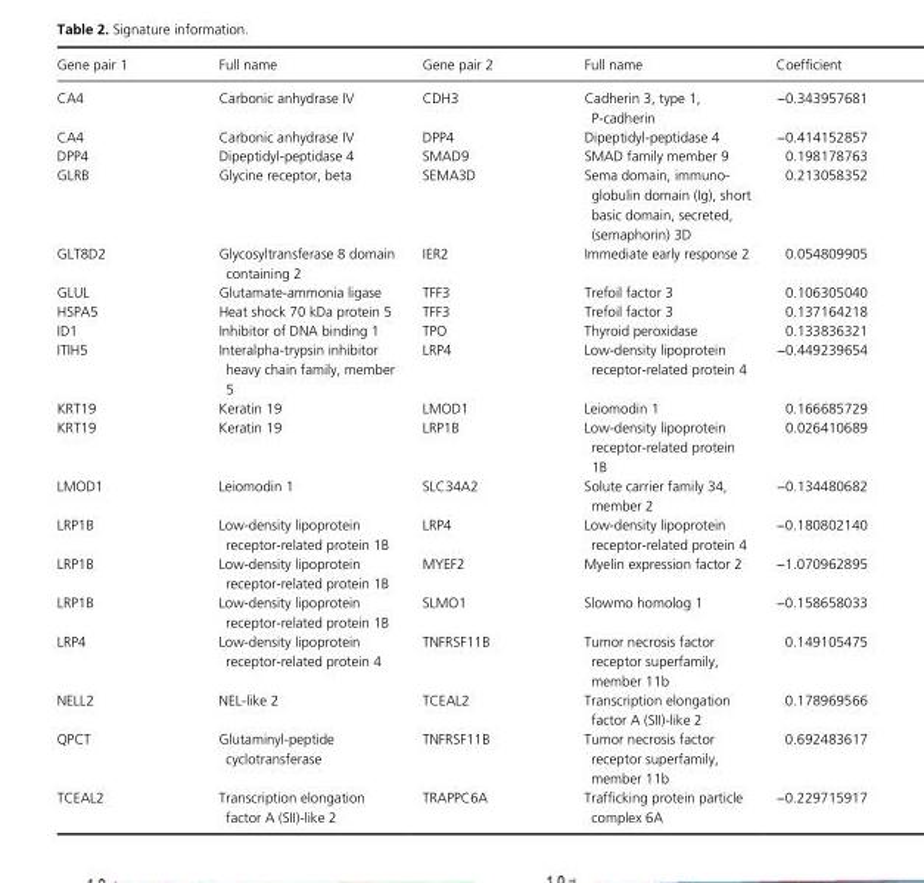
<table><thead><tr><td>Gene pair 1</td><td>Full name</td><td>Gene pair 2</td><td>Full name</td><td>Coefficient</td></tr></thead><tbody><tr><td>CA4</td><td>Carbonic anhydrase IV</td><td>CDH3</td><td>Cadherin 3, type 1, P- cadherin</td><td>−0.343957681</td></tr><tr><td>CA4</td><td>Carbonic anhydrase IV</td><td>DPP4</td><td>Dipeptidyl- peptidase 4</td><td>−0.414152857</td></tr><tr><td>DPP4</td><td>Dipeptidyl- peptidase 4</td><td>SMAD9</td><td>SMAD family member 9</td><td>0.198178763</td></tr><tr><td>GLRB</td><td>Glycine receptor, beta</td><td>SEMA3D</td><td>Sema domain, immuno- globulin domain (Ig), short basic domain, secreted, (semaphorin) 3D</td><td>0.213058352</td></tr><tr><td>GLT8D2</td><td>Glycosyltransferase 8 domain containing 2</td><td>IER2</td><td>Immediate early response 2</td><td>0.054809905</td></tr><tr><td>GLUL</td><td>Glutamate- ammonia ligase</td><td>TFF3</td><td>Trefoil factor 3</td><td>0.106305040</td></tr><tr><td>HSPA5</td><td>Heat shock 70 kDa protein 5</td><td>TFF3</td><td>Trefoil factor 3</td><td>0.137164218</td></tr><tr><td>ID1</td><td>Inhibitor of DNA binding 1</td><td>TPO</td><td>Thyroid peroxidase</td><td>0.133836321</td></tr><tr><td>ITIH5</td><td>Interalpha- trypsin inhibitor heavy chain family, member 5</td><td>LRP4</td><td>Low- density lipoprotein receptor- related protein 4</td><td>−0.449239654</td></tr><tr><td>KRT19</td><td>Keratin 19</td><td>LMOD1</td><td>Leiomodin 1</td><td>0.166685729</td></tr><tr><td>KRT19</td><td>Keratin 19</td><td>LRP1B</td><td>Low- density lipoprotein receptor- related protein 1B</td><td>0.026410689</td></tr><tr><td>LMOD1</td><td>Leiomodin 1</td><td>SLC34A2</td><td>Solute carrier family 34, member 2</td><td>−0.134480682</td></tr><tr><td>LRP1B</td><td>Low- density lipoprotein receptor- related protein 1B</td><td>LRP4</td><td>Low- density lipoprotein receptor- related protein 4</td><td>−0.180802140</td></tr><tr><td>LRP1B</td><td>Low- density lipoprotein receptor- related protein 1B</td><td>MYEF2</td><td>Myelin expression factor 2</td><td>−1.070962895</td></tr><tr><td>LRP1B</td><td>Low- density lipoprotein receptor- related protein 1B</td><td>SLMO1</td><td>Slowmo homolog 1</td><td>−0.158658033</td></tr><tr><td>LRP4</td><td>Low- density lipoprotein receptor- related protein 4</td><td>TNFRSF11B</td><td>Tumor necrosis factor receptor superfamily, member 11b</td><td>0.149105475</td></tr><tr><td>NELL2</td><td>NEL- like 2</td><td>TCEAL2</td><td>Transcription elongation factor A (SII)- like 2</td><td>0.178969566</td></tr><tr><td>QPCT</td><td>Glutaminyl- peptide cyclotransferase</td><td>TNFRSF11B</td><td>Tumor necrosis factor receptor superfamily, member 11b</td><td>0.692483617</td></tr><tr><td>TCEAL2</td><td>Transcription elongation factor A (SII)- like 2</td><td>TRAPPC6A</td><td>Trafficking protein particle complex 6A</td><td>−0.229715917</td></tr></tbody></table>